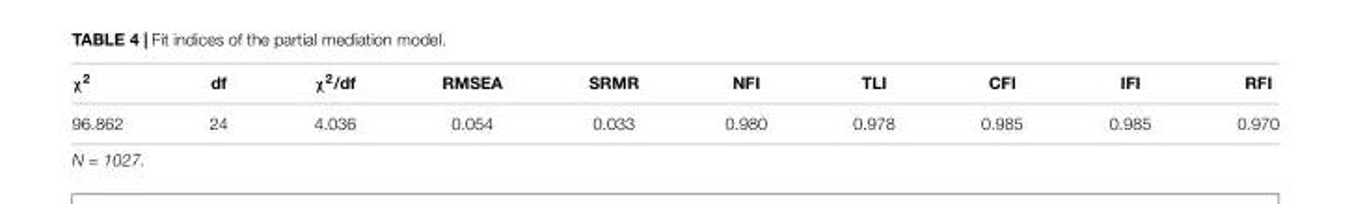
<table><thead><tr><td>χ<sup>2</sup></td><td>df</td><td>χ<sup>2</sup>/df</td><td>RMSEA</td><td>SRMR</td><td>NFI</td><td>TLI</td><td>CFI</td><td>IFI</td><td>RFI</td></tr></thead><tbody><tr><td>96.862</td><td>24</td><td>4.036</td><td>0.054</td><td>0.033</td><td>0.980</td><td>0.978</td><td>0.985</td><td>0.985</td><td>0.970</td></tr></tbody></table>